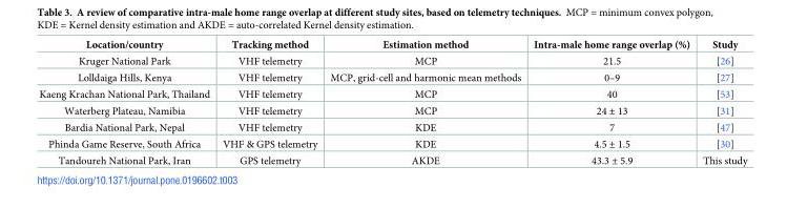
<table><thead><tr><td>Location/country</td><td>Tracking method</td><td>Estimation method</td><td>Intra-male home range overlap (%)</td><td>Study</td></tr></thead><tbody><tr><td>Kruger National Park</td><td>VHF telemetry</td><td>MCP</td><td>21.5</td><td>[26]</td></tr><tr><td>Lolldaiga Hills, Kenya</td><td>VHF telemetry</td><td>MCP, grid-cell and harmonic mean methods</td><td>0–9</td><td>[27]</td></tr><tr><td>Kaeng Krachan National Park, Thailand</td><td>VHF telemetry</td><td>MCP</td><td>40</td><td>[53]</td></tr><tr><td>Waterberg Plateau, Namibia</td><td>VHF telemetry</td><td>MCP</td><td>24 ± 13</td><td>[31]</td></tr><tr><td>Bardia National Park, Nepal</td><td>VHF telemetry</td><td>KDE</td><td>7</td><td>[47]</td></tr><tr><td>Phinda Game Reserve, South Africa</td><td>VHF &amp; GPS telemetry</td><td>KDE</td><td>4.5 ± 1.5</td><td>[30]</td></tr><tr><td>Tandoureh National Park, Iran</td><td>GPS telemetry</td><td>AKDE</td><td>43.3 ± 5.9</td><td>This study</td></tr></tbody></table>